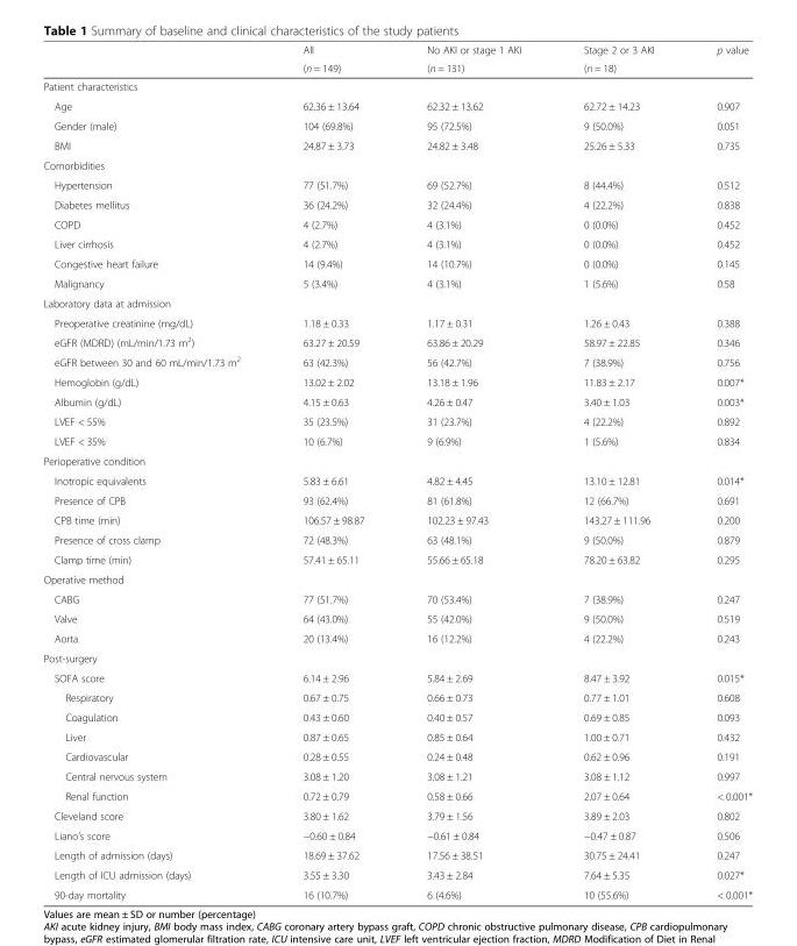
<table><thead><tr><td rowspan="2"></td><td rowspan="2">All (n = 149)</td><td rowspan="2">No AKI or stage 1 AKI (n = 131)</td><td rowspan="2">Stage 2 or 3 AKI (n = 18)</td><td rowspan="2">p value</td></tr><tr></tr></thead><tbody><tr><td colspan="5">Patient characteristics</td></tr><tr><td>Age</td><td>62.36 ± 13.64</td><td>62.32 ± 13.62</td><td>62.72 ± 14.23</td><td>0.907</td></tr><tr><td>Gender (male)</td><td>104 (69.8%)</td><td>95 (72.5%)</td><td>9 (50.0%)</td><td>0.051</td></tr><tr><td>BMI</td><td>24.87 ± 3.73</td><td>24.82 ± 3.48</td><td>25.26 ± 5.33</td><td>0.735</td></tr><tr><td colspan="5">Comorbidities</td></tr><tr><td>Hypertension</td><td>77 (51.7%)</td><td>69 (52.7%)</td><td>8 (44.4%)</td><td>0.512</td></tr><tr><td>Diabetes mellitus</td><td>36 (24.2%)</td><td>32 (24.4%)</td><td>4 (22.2%)</td><td>0.838</td></tr><tr><td>COPD</td><td>4 (2.7%)</td><td>4 (3.1%)</td><td>0 (0.0%)</td><td>0.452</td></tr><tr><td>Liver cirrhosis</td><td>4 (2.7%)</td><td>4 (3.1%)</td><td>0 (0.0%)</td><td>0.452</td></tr><tr><td>Congestive heart failure</td><td>14 (9.4%)</td><td>14 (10.7%)</td><td>0 (0.0%)</td><td>0.145</td></tr><tr><td>Malignancy</td><td>5 (3.4%)</td><td>4 (3.1%)</td><td>1 (5.6%)</td><td>0.58</td></tr><tr><td colspan="5">Laboratory data at admission</td></tr><tr><td>Preoperative creatinine (mg/dL)</td><td>1.18 ± 0.33</td><td>1.17 ± 0.31</td><td>1.26 ± 0.43</td><td>0.388</td></tr><tr><td>eGFR (MDRD) (mL/min/1.73 m<sup>2</sup>)</td><td>63.27 ± 20.59</td><td>63.86 ± 20.29</td><td>58.97 ± 22.85</td><td>0.346</td></tr><tr><td>eGFR between 30 and 60 mL/min/1.73 m<sup>2</sup></td><td>63 (42.3%)</td><td>56 (42.7%)</td><td>7 (38.9%)</td><td>0.756</td></tr><tr><td>Hemoglobin (g/dL)</td><td>13.02 ± 2.02</td><td>13.18 ± 1.96</td><td>11.83 ± 2.17</td><td>0.007*</td></tr><tr><td>Albumin (g/dL)</td><td>4.15 ± 0.63</td><td>4.26 ± 0.47</td><td>3.40 ± 1.03</td><td>0.003*</td></tr><tr><td>LVEF &lt; 55%</td><td>35 (23.5%)</td><td>31 (23.7%)</td><td>4 (22.2%)</td><td>0.892</td></tr><tr><td>LVEF &lt; 35%</td><td>10 (6.7%)</td><td>9 (6.9%)</td><td>1 (5.6%)</td><td>0.834</td></tr><tr><td colspan="5">Perioperative condition</td></tr><tr><td>Inotropic equivalents</td><td>5.83 ± 6.61</td><td>4.82 ± 4.45</td><td>13.10 ± 12.81</td><td>0.014*</td></tr><tr><td>Presence of CPB</td><td>93 (62.4%)</td><td>81 (61.8%)</td><td>12 (66.7%)</td><td>0.691</td></tr><tr><td>CPB time (min)</td><td>106.57 ± 98.87</td><td>102.23 ± 97.43</td><td>143.27 ± 111.96</td><td>0.200</td></tr><tr><td>Presence of cross clamp</td><td>72 (48.3%)</td><td>63 (48.1%)</td><td>9 (50.0%)</td><td>0.879</td></tr><tr><td>Clamp time (min)</td><td>57.41 ± 65.11</td><td>55.66 ± 65.18</td><td>78.20 ± 63.82</td><td>0.295</td></tr><tr><td colspan="5">Operative method</td></tr><tr><td>CABG</td><td>77 (51.7%)</td><td>70 (53.4%)</td><td>7 (38.9%)</td><td>0.247</td></tr><tr><td>Valve</td><td>64 (43.0%)</td><td>55 (42.0%)</td><td>9 (50.0%)</td><td>0.519</td></tr><tr><td>Aorta</td><td>20 (13.4%)</td><td>16 (12.2%)</td><td>4 (22.2%)</td><td>0.243</td></tr><tr><td colspan="5">Post-surgery</td></tr><tr><td>SOFA score</td><td>6.14 ± 2.96</td><td>5.84 ± 2.69</td><td>8.47 ± 3.92</td><td>0.015*</td></tr><tr><td>Respiratory</td><td>0.67 ± 0.75</td><td>0.66 ± 0.73</td><td>0.77 ± 1.01</td><td>0.608</td></tr><tr><td>Coagulation</td><td>0.43 ± 0.60</td><td>0.40 ± 0.57</td><td>0.69 ± 0.85</td><td>0.093</td></tr><tr><td>Liver</td><td>0.87 ± 0.65</td><td>0.85 ± 0.64</td><td>1.00 ± 0.71</td><td>0.432</td></tr><tr><td>Cardiovascular</td><td>0.28 ± 0.55</td><td>0.24 ± 0.48</td><td>0.62 ± 0.96</td><td>0.191</td></tr><tr><td>Central nervous system</td><td>3.08 ± 1.20</td><td>3.08 ± 1.21</td><td>3.08 ± 1.12</td><td>0.997</td></tr><tr><td>Renal function</td><td>0.72 ± 0.79</td><td>0.58 ± 0.66</td><td>2.07 ± 0.64</td><td>&lt; 0.001*</td></tr><tr><td>Cleveland score</td><td>3.80 ± 1.62</td><td>3.79 ± 1.56</td><td>3.89 ± 2.03</td><td>0.802</td></tr><tr><td>Liano’s score</td><td>−0.60 ± 0.84</td><td>−0.61 ± 0.84</td><td>−0.47 ± 0.87</td><td>0.506</td></tr><tr><td>Length of admission (days)</td><td>18.69 ± 37.62</td><td>17.56 ± 38.51</td><td>30.75 ± 24.41</td><td>0.247</td></tr><tr><td>Length of ICU admission (days)</td><td>3.55 ± 3.30</td><td>3.43 ± 2.84</td><td>7.64 ± 5.35</td><td>0.027*</td></tr><tr><td>90-day mortality</td><td>16 (10.7%)</td><td>6 (4.6%)</td><td>10 (55.6%)</td><td>&lt; 0.001*</td></tr></tbody></table>